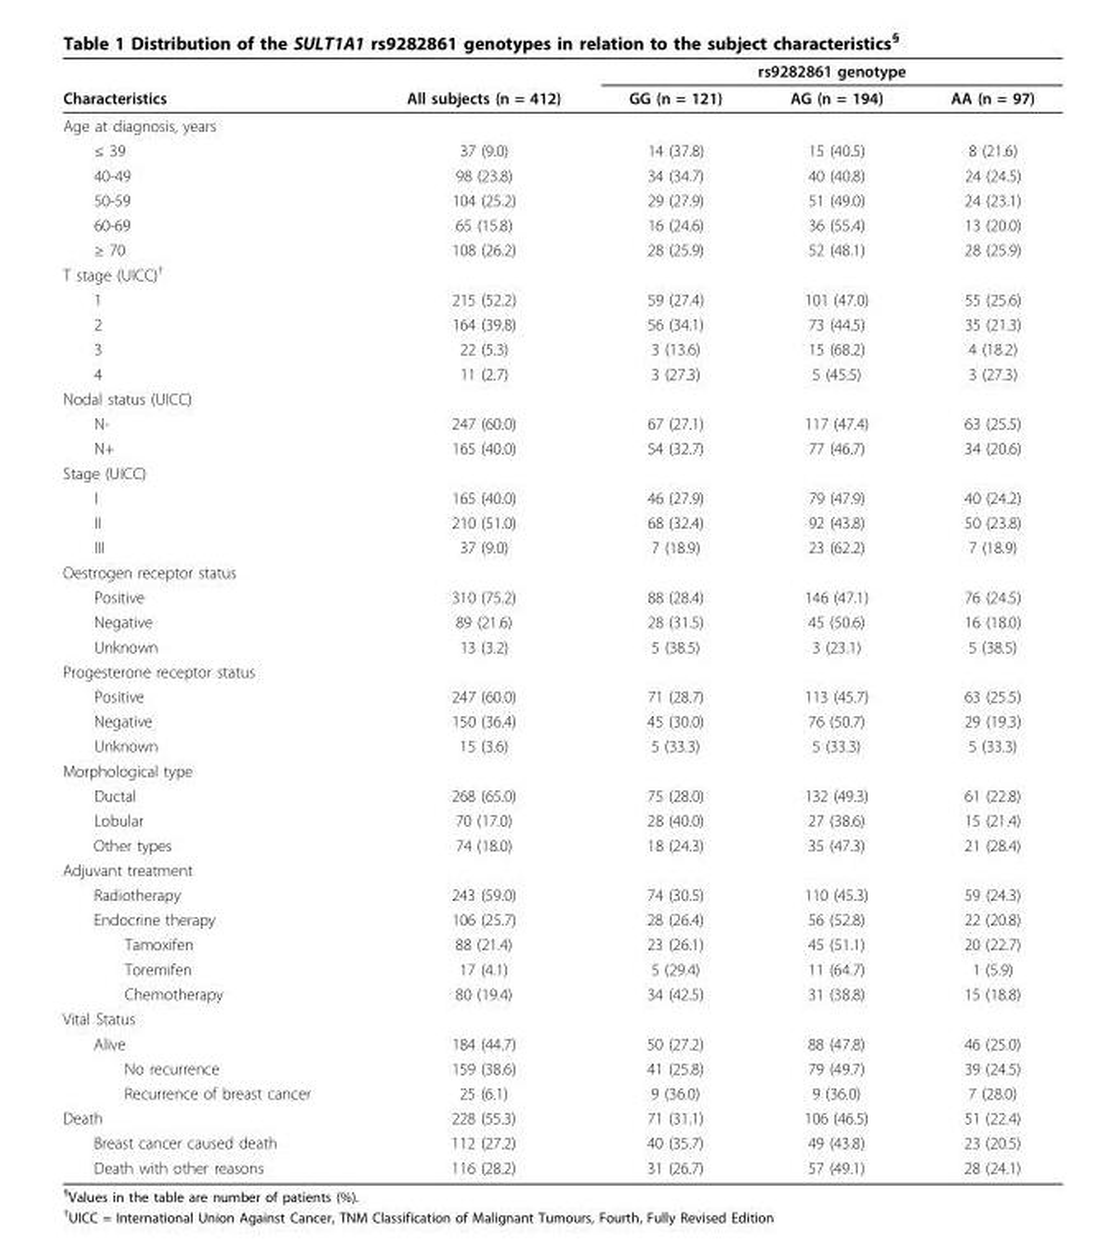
<table><thead><tr><td rowspan="2">Characteristics</td><td rowspan="2">All subjects (n = 412)</td><td colspan="3">rs9282861 genotype</td></tr><tr><td>GG (n = 121)</td><td>AG (n = 194)</td><td>AA (n = 97)</td></tr></thead><tbody><tr><td colspan="5">Age at diagnosis, years</td></tr><tr><td>≤ 39</td><td>37 (9.0)</td><td>14 (37.8)</td><td>15 (40.5)</td><td>8 (21.6)</td></tr><tr><td>40-49</td><td>98 (23.8)</td><td>34 (34.7)</td><td>40 (40.8)</td><td>24 (24.5)</td></tr><tr><td>50-59</td><td>104 (25.2)</td><td>29 (27.9)</td><td>51 (49.0)</td><td>24 (23.1)</td></tr><tr><td>60-69</td><td>65 (15.8)</td><td>16 (24.6)</td><td>36 (55.4)</td><td>13 (20.0)</td></tr><tr><td>≥ 70</td><td>108 (26.2)</td><td>28 (25.9)</td><td>52 (48.1)</td><td>28 (25.9)</td></tr><tr><td colspan="5">T stage (UICC)<sup>†</sup></td></tr><tr><td>1</td><td>215 (52.2)</td><td>59 (27.4)</td><td>101 (47.0)</td><td>55 (25.6)</td></tr><tr><td>2</td><td>164 (39.8)</td><td>56 (34.1)</td><td>73 (44.5)</td><td>35 (21.3)</td></tr><tr><td>3</td><td>22 (5.3)</td><td>3 (13.6)</td><td>15 (68.2)</td><td>4 (18.2)</td></tr><tr><td>4</td><td>11 (2.7)</td><td>3 (27.3)</td><td>5 (45.5)</td><td>3 (27.3)</td></tr><tr><td colspan="5">Nodal status (UICC)</td></tr><tr><td>N-</td><td>247 (60.0)</td><td>67 (27.1)</td><td>117 (47.4)</td><td>63 (25.5)</td></tr><tr><td>N+</td><td>165 (40.0)</td><td>54 (32.7)</td><td>77 (46.7)</td><td>34 (20.6)</td></tr><tr><td colspan="5">Stage (UICC)</td></tr><tr><td>I</td><td>165 (40.0)</td><td>46 (27.9)</td><td>79 (47.9)</td><td>40 (24.2)</td></tr><tr><td>II</td><td>210 (51.0)</td><td>68 (32.4)</td><td>92 (43.8)</td><td>50 (23.8)</td></tr><tr><td>III</td><td>37 (9.0)</td><td>7 (18.9)</td><td>23 (62.2)</td><td>7 (18.9)</td></tr><tr><td colspan="5">Oestrogen receptor status</td></tr><tr><td>Positive</td><td>310 (75.2)</td><td>88 (28.4)</td><td>146 (47.1)</td><td>76 (24.5)</td></tr><tr><td>Negative</td><td>89 (21.6)</td><td>28 (31.5)</td><td>45 (50.6)</td><td>16 (18.0)</td></tr><tr><td>Unknown</td><td>13 (3.2)</td><td>5 (38.5)</td><td>3 (23.1)</td><td>5 (38.5)</td></tr><tr><td colspan="5">Progesterone receptor status</td></tr><tr><td>Positive</td><td>247 (60.0)</td><td>71 (28.7)</td><td>113 (45.7)</td><td>63 (25.5)</td></tr><tr><td>Negative</td><td>150 (36.4)</td><td>45 (30.0)</td><td>76 (50.7)</td><td>29 (19.3)</td></tr><tr><td>Unknown</td><td>15 (3.6)</td><td>5 (33.3)</td><td>5 (33.3)</td><td>5 (33.3)</td></tr><tr><td colspan="5">Morphological type</td></tr><tr><td>Ductal</td><td>268 (65.0)</td><td>75 (28.0)</td><td>132 (49.3)</td><td>61 (22.8)</td></tr><tr><td>Lobular</td><td>70 (17.0)</td><td>28 (40.0)</td><td>27 (38.6)</td><td>15 (21.4)</td></tr><tr><td>Other types</td><td>74 (18.0)</td><td>18 (24.3)</td><td>35 (47.3)</td><td>21 (28.4)</td></tr><tr><td colspan="5">Adjuvant treatment</td></tr><tr><td>Radiotherapy</td><td>243 (59.0)</td><td>74 (30.5)</td><td>110 (45.3)</td><td>59 (24.3)</td></tr><tr><td>Endocrine therapy</td><td>106 (25.7)</td><td>28 (26.4)</td><td>56 (52.8)</td><td>22 (20.8)</td></tr><tr><td>Tamoxifen</td><td>88 (21.4)</td><td>23 (26.1)</td><td>45 (51.1)</td><td>20 (22.7)</td></tr><tr><td>Toremifen</td><td>17 (4.1)</td><td>5 (29.4)</td><td>11 (64.7)</td><td>1 (5.9)</td></tr><tr><td>Chemotherapy</td><td>80 (19.4)</td><td>34 (42.5)</td><td>31 (38.8)</td><td>15 (18.8)</td></tr><tr><td colspan="5">Vital Status</td></tr><tr><td>Alive</td><td>184 (44.7)</td><td>50 (27.2)</td><td>88 (47.8)</td><td>46 (25.0)</td></tr><tr><td>No recurrence</td><td>159 (38.6)</td><td>41 (25.8)</td><td>79 (49.7)</td><td>39 (24.5)</td></tr><tr><td>Recurrence of breast cancer</td><td>25 (6.1)</td><td>9 (36.0)</td><td>9 (36.0)</td><td>7 (28.0)</td></tr><tr><td>Death</td><td>228 (55.3)</td><td>71 (31.1)</td><td>106 (46.5)</td><td>51 (22.4)</td></tr><tr><td>Breast cancer caused death</td><td>112 (27.2)</td><td>40 (35.7)</td><td>49 (43.8)</td><td>23 (20.5)</td></tr><tr><td>Death with other reasons</td><td>116 (28.2)</td><td>31 (26.7)</td><td>57 (49.1)</td><td>28 (24.1)</td></tr></tbody></table>